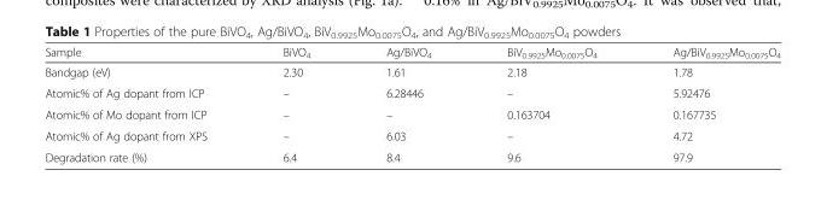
<table><thead><tr><td>Sample</td><td>BiVO<sub>4</sub></td><td>Ag/BiVO<sub>4</sub></td><td>BiV<sub>0.9925</sub>Mo<sub>0.0075</sub>O<sub>4</sub></td><td>Ag/BiV<sub>0.9925</sub>Mo<sub>0.0075</sub>O<sub>4</sub></td></tr></thead><tbody><tr><td>Bandgap (eV)</td><td>2.30</td><td>1.61</td><td>2.18</td><td>1.78</td></tr><tr><td>Atomic% of Ag dopant from ICP</td><td>–</td><td>6.28446</td><td>–</td><td>5.92476</td></tr><tr><td>Atomic% of Mo dopant from ICP</td><td>–</td><td>–</td><td>0.163704</td><td>0.167735</td></tr><tr><td>Atomic% of Ag dopant from XPS</td><td>–</td><td>6.03</td><td>–</td><td>4.72</td></tr><tr><td>Degradation rate (%)</td><td>6.4</td><td>8.4</td><td>9.6</td><td>97.9</td></tr></tbody></table>